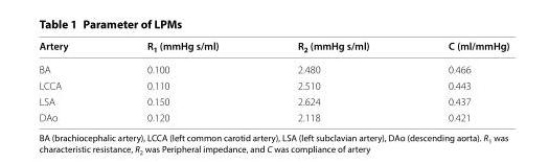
<table><thead><tr><td>Artery</td><td>R<sub>1</sub> (mmHg s/ml)</td><td>R<sub>2</sub> (mmHg s/ml)</td><td>C (ml/mmHg)</td></tr></thead><tbody><tr><td>BA</td><td>0.100</td><td>2.480</td><td>0.466</td></tr><tr><td>LCCA</td><td>0.110</td><td>2.510</td><td>0.443</td></tr><tr><td>LSA</td><td>0.150</td><td>2.624</td><td>0.437</td></tr><tr><td>DAo</td><td>0.120</td><td>2.118</td><td>0.421</td></tr></tbody></table>